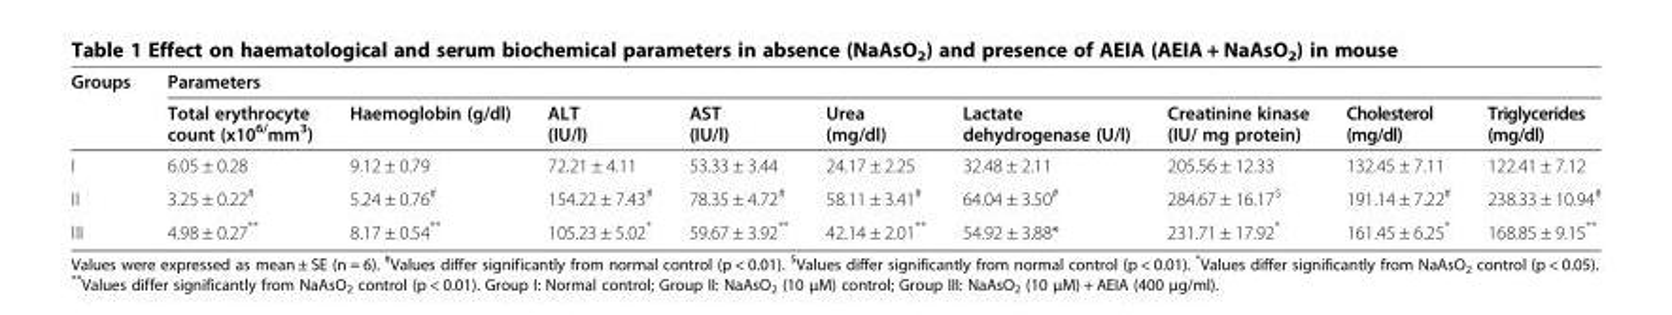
<table><thead><tr><td rowspan="2">Groups</td><td colspan="9">Parameters</td></tr><tr><td>Total erythrocyte count (x10<sup>6/</sup>mm<sup>3</sup>)</td><td>Haemoglobin (g/dl)</td><td>ALT (IU/l)</td><td>AST (IU/l)</td><td>Urea (mg/dl)</td><td>Lactate dehydrogenase (U/l)</td><td>Creatinine kinase (IU/ mg protein)</td><td>Cholesterol (mg/dl)</td><td>Triglycerides (mg/dl)</td></tr></thead><tbody><tr><td>I</td><td>6.05 ± 0.28</td><td>9.12 ± 0.79</td><td>72.21 ± 4.11</td><td>53.33 ± 3.44</td><td>24.17 ± 2.25</td><td>32.48 ± 2.11</td><td>205.56 ± 12.33</td><td>132.45 ± 7.11</td><td>122.41 ± 7.12</td></tr><tr><td>II</td><td>3.25 ± 0.22<sup>#</sup></td><td>5.24 ± 0.76<sup>#</sup></td><td>154.22 ± 7.43<sup>#</sup></td><td>78.35 ± 4.72<sup>#</sup></td><td>58.11 ± 3.41<sup>#</sup></td><td>64.04 ± 3.50<sup>#</sup></td><td>284.67 ± 16.17<sup>$</sup></td><td>191.14 ± 7.22<sup>#</sup></td><td>238.33 ± 10.94<sup>#</sup></td></tr><tr><td>III</td><td>4.98 ± 0.27**</td><td>8.17 ± 0.54**</td><td>105.23 ± 5.02*</td><td>59.67 ± 3.92**</td><td>42.14 ± 2.01**</td><td>54.92 ± 3.88*</td><td>231.71 ± 17.92*</td><td>161.45 ± 6.25*</td><td>168.85 ± 9.15**</td></tr></tbody></table>